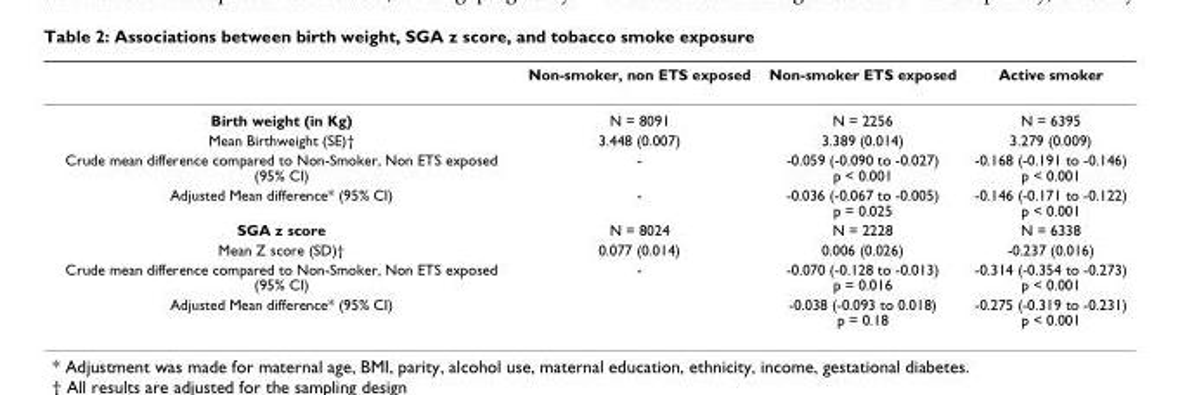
<table><thead><tr><td></td><td>Non-smoker, non ETS exposed</td><td>Non-smoker ETS exposed</td><td>Active smoker</td></tr></thead><tbody><tr><td>Birth weight (in Kg)</td><td>N = 8091</td><td>N = 2256</td><td>N = 6395</td></tr><tr><td>Mean Birthweight (SE)†</td><td>3.448 (0.007)</td><td>3.389 (0.014)</td><td>3.279 (0.009)</td></tr><tr><td>Crude mean difference compared to Non-Smoker, Non ETS exposed (95% CI)</td><td>-</td><td>-0.059 (-0.090 to -0.027) p &lt; 0.001</td><td>-0.168 (-0.191 to -0.146) p &lt; 0.001</td></tr><tr><td>Adjusted Mean difference* (95% CI)</td><td>-</td><td>-0.036 (-0.067 to -0.005) p = 0.025</td><td>-0.146 (-0.171 to -0.122) p &lt; 0.001</td></tr><tr><td>SGA z score</td><td>N = 8024</td><td>N = 2228</td><td>N = 6338</td></tr><tr><td>Mean Z score (SD)†</td><td>0.077 (0.014)</td><td>0.006 (0.026)</td><td>-0.237 (0.016)</td></tr><tr><td>Crude mean difference compared to Non-Smoker, Non ETS exposed (95% CI)</td><td>-</td><td>-0.070 (-0.128 to -0.013) p = 0.016</td><td>-0.314 (-0.354 to -0.273) p &lt; 0.001</td></tr><tr><td>Adjusted Mean difference* (95% CI)</td><td></td><td>-0.038 (-0.093 to 0.018) p = 0.18</td><td>-0.275 (-0.319 to -0.231) p &lt; 0.001</td></tr></tbody></table>